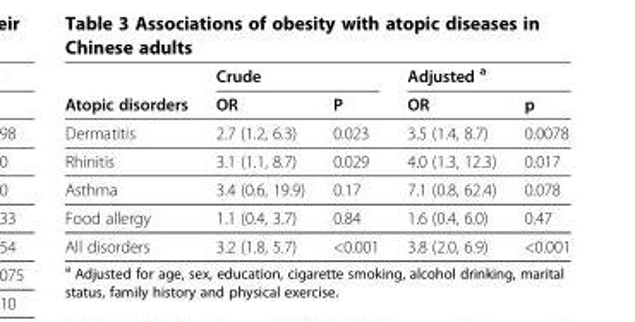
<table><thead><tr><td></td><td>Crude</td><td></td><td>Adjusted <sup>a</sup></td><td></td></tr></thead><tbody><tr><td>Atopic disorders</td><td>OR</td><td>P</td><td>OR</td><td>p</td></tr><tr><td>Dermatitis</td><td>2.7 (1.2, 6.3)</td><td>0.023</td><td>3.5 (1.4, 8.7)</td><td>0.0078</td></tr><tr><td>Rhinitis</td><td>3.1 (1.1, 8.7)</td><td>0.029</td><td>4.0 (1.3, 12.3)</td><td>0.017</td></tr><tr><td>Asthma</td><td>3.4 (0.6, 19.9)</td><td>0.17</td><td>7.1 (0.8, 62.4)</td><td>0.078</td></tr><tr><td>Food allergy</td><td>1.1 (0.4, 3.7)</td><td>0.84</td><td>1.6 (0.4, 6.0)</td><td>0.47</td></tr><tr><td>All disorders</td><td>3.2 (1.8, 5.7)</td><td>&lt;0.001</td><td>3.8 (2.0, 6.9)</td><td>&lt;0.001</td></tr></tbody></table>